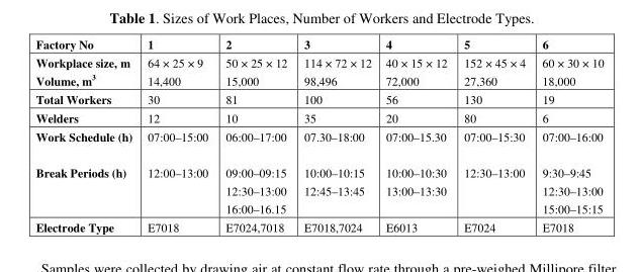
<table><thead><tr><td>Factory No</td><td>1</td><td>2</td><td>3</td><td>4</td><td>5</td><td>6</td></tr></thead><tbody><tr><td>Workplace size, m Volume, m<sup>3</sup></td><td>64 × 25 × 9 14,400</td><td>50 × 25 × 12 15,000</td><td>114 × 72 × 12 98,496</td><td>40 × 15 × 12 72,000</td><td>152 × 45 × 4 27,360</td><td>60 × 30 × 10 18,000</td></tr><tr><td>Total Workers</td><td>30</td><td>81</td><td>100</td><td>56</td><td>130</td><td>19</td></tr><tr><td>Welders</td><td>12</td><td>10</td><td>35</td><td>20</td><td>80</td><td>6</td></tr><tr><td>Work Schedule (h) Break Periods (h)</td><td>07:00–15:00 12:00–13:00</td><td>06:00–17:00 09:00–09:15 12:30–13:00 16:00–16.15</td><td>07.30–18:00 10:00–10:15 12:45–13:45</td><td>07:00–15.30 10:00–10:30 13:00–13:30</td><td>07:00–15:30 12:30–13:00</td><td>07:00–16:00 9:30–9:45 12:30–13:00 15:00–15:15</td></tr><tr><td>Electrode Type</td><td>E7018</td><td>E7024,7018</td><td>E7018,7024</td><td>E6013</td><td>E7024</td><td>E7018</td></tr></tbody></table>